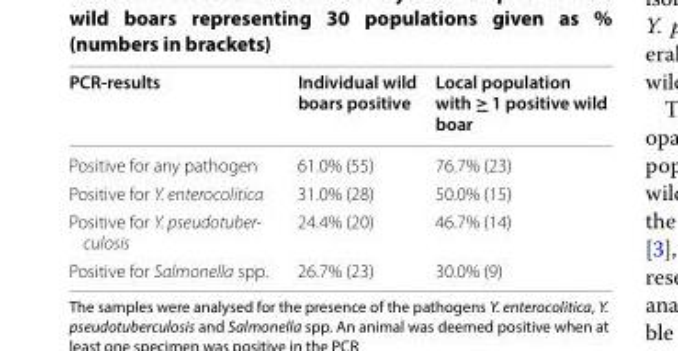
<table><thead><tr><td>PCR‑results</td><td>Individual wild boars positive</td><td>Local population with ≥ 1 positive wild boar</td></tr></thead><tbody><tr><td>Positive for any pathogen</td><td>61.0% (55)</td><td>76.7% (23)</td></tr><tr><td>Positive for Y. enterocolitica</td><td>31.0% (28)</td><td>50.0% (15)</td></tr><tr><td>Positive for Y. pseudotuber- culosis</td><td>24.4% (20)</td><td>46.7% (14)</td></tr><tr><td>Positive for Salmonella spp.</td><td>26.7% (23)</td><td>30.0% (9)</td></tr></tbody></table>